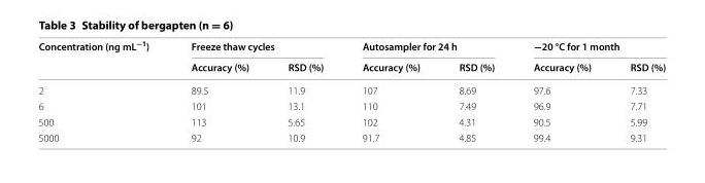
<table><thead><tr><td rowspan="2">Concentration (ng mL<sup>−1</sup>)</td><td colspan="2">Freeze thaw cycles</td><td colspan="2">Autosampler for 24 h</td><td colspan="2">−20 °C for 1 month</td></tr><tr><td>Accuracy (%)</td><td>RSD (%)</td><td>Accuracy (%)</td><td>RSD (%)</td><td>Accuracy (%)</td><td>RSD (%)</td></tr></thead><tbody><tr><td>2</td><td>89.5</td><td>11.9</td><td>107</td><td>8.69</td><td>97.6</td><td>7.33</td></tr><tr><td>6</td><td>101</td><td>13.1</td><td>110</td><td>7.49</td><td>96.9</td><td>7.71</td></tr><tr><td>500</td><td>113</td><td>5.65</td><td>102</td><td>4.31</td><td>90.5</td><td>5.99</td></tr><tr><td>5000</td><td>92</td><td>10.9</td><td>91.7</td><td>4.85</td><td>99.4</td><td>9.31</td></tr></tbody></table>